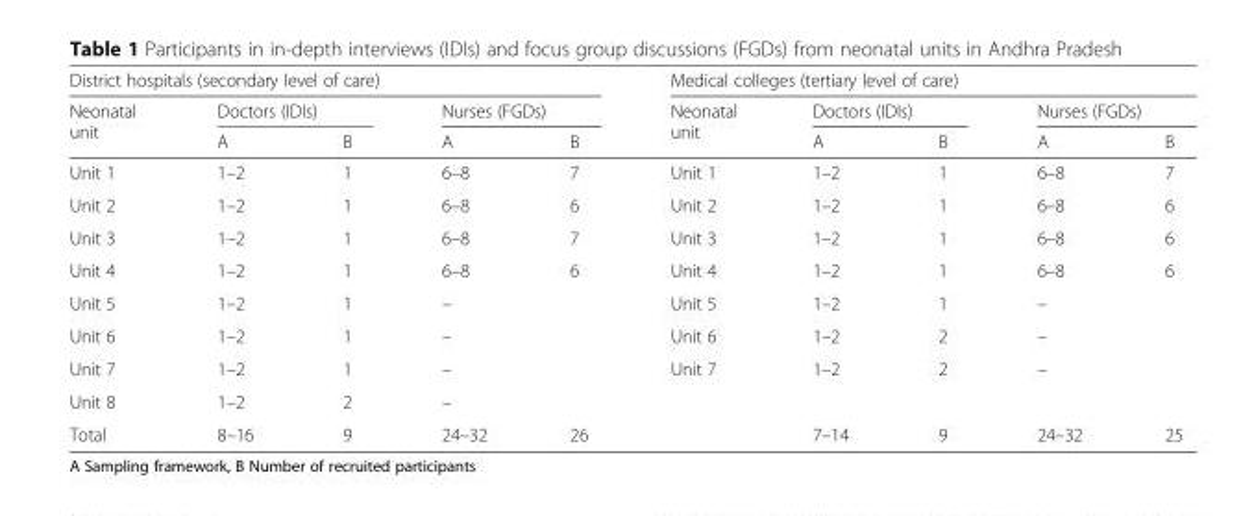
<table><thead><tr><td colspan="5">District hospitals (secondary level of care)</td><td colspan="5">Medical colleges (tertiary level of care)</td></tr><tr><td rowspan="2">Neonatal unit</td><td colspan="2">Doctors (IDIs)</td><td colspan="2">Nurses (FGDs)</td><td rowspan="2">Neonatal unit</td><td colspan="2">Doctors (IDIs)</td><td colspan="2">Nurses (FGDs)</td></tr><tr><td>A</td><td>B</td><td>A</td><td>B</td><td>A</td><td>B</td><td>A</td><td>B</td></tr></thead><tbody><tr><td>Unit 1</td><td>1–2</td><td>1</td><td>6–8</td><td>7</td><td>Unit 1</td><td>1–2</td><td>1</td><td>6–8</td><td>7</td></tr><tr><td>Unit 2</td><td>1–2</td><td>1</td><td>6–8</td><td>6</td><td>Unit 2</td><td>1–2</td><td>1</td><td>6–8</td><td>6</td></tr><tr><td>Unit 3</td><td>1–2</td><td>1</td><td>6–8</td><td>7</td><td>Unit 3</td><td>1–2</td><td>1</td><td>6–8</td><td>6</td></tr><tr><td>Unit 4</td><td>1–2</td><td>1</td><td>6–8</td><td>6</td><td>Unit 4</td><td>1–2</td><td>1</td><td>6–8</td><td>6</td></tr><tr><td>Unit 5</td><td>1–2</td><td>1</td><td>–</td><td></td><td>Unit 5</td><td>1–2</td><td>1</td><td>–</td><td></td></tr><tr><td>Unit 6</td><td>1–2</td><td>1</td><td>–</td><td></td><td>Unit 6</td><td>1–2</td><td>2</td><td>–</td><td></td></tr><tr><td>Unit 7</td><td>1–2</td><td>1</td><td>–</td><td></td><td>Unit 7</td><td>1–2</td><td>2</td><td>–</td><td></td></tr><tr><td>Unit 8</td><td>1–2</td><td>2</td><td>–</td><td></td><td></td><td></td><td></td><td></td><td></td></tr><tr><td>Total</td><td>8–16</td><td>9</td><td>24–32</td><td>26</td><td></td><td>7–14</td><td>9</td><td>24–32</td><td>25</td></tr></tbody></table>